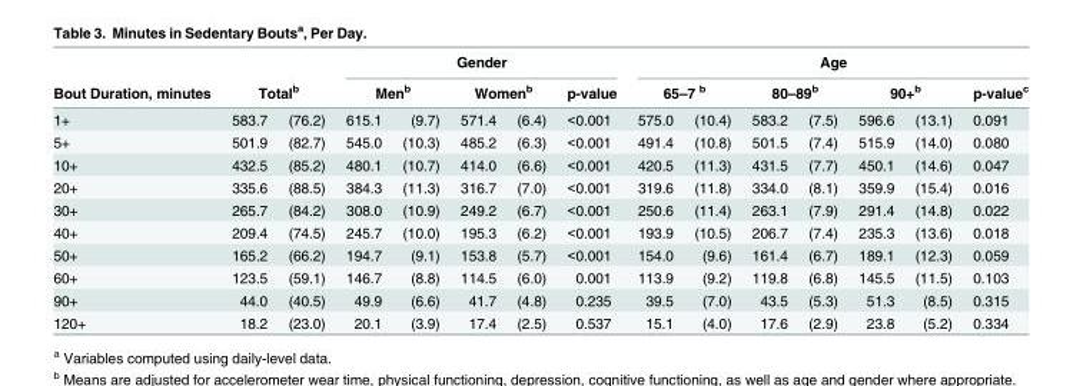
<table><thead><tr><td rowspan="3">Bout Duration, minutes 1+</td><td></td><td></td><td colspan="5">Gender</td><td colspan="7">Age</td></tr><tr><td colspan="2">Total<sup>b</sup></td><td colspan="2">Men<sup>b</sup></td><td colspan="2">Women<sup>b</sup></td><td rowspan="2">p-value &lt;0.001</td><td colspan="2">65–7 <sup>b</sup></td><td colspan="2">80–89<sup>b</sup></td><td colspan="2">90+<sup>b</sup></td><td rowspan="2">p-value<sup>c</sup> 0.091</td></tr><tr><td>583.7</td><td>(76.2)</td><td>615.1</td><td>(9.7)</td><td>571.4</td><td>(6.4)</td><td>575.0</td><td>(10.4)</td><td>583.2</td><td>(7.5)</td><td>596.6</td><td>(13.1)</td></tr></thead><tbody><tr><td>5+</td><td>501.9</td><td>(82.7)</td><td>545.0</td><td>(10.3)</td><td>485.2</td><td>(6.3)</td><td>&lt;0.001</td><td>491.4</td><td>(10.8)</td><td>501.5</td><td>(7.4)</td><td>515.9</td><td>(14.0)</td><td>0.080</td></tr><tr><td>10+</td><td>432.5</td><td>(85.2)</td><td>480.1</td><td>(10.7)</td><td>414.0</td><td>(6.6)</td><td>&lt;0.001</td><td>420.5</td><td>(11.3)</td><td>431.5</td><td>(7.7)</td><td>450.1</td><td>(14.6)</td><td>0.047</td></tr><tr><td>20+</td><td>335.6</td><td>(88.5)</td><td>384.3</td><td>(11.3)</td><td>316.7</td><td>(7.0)</td><td>&lt;0.001</td><td>319.6</td><td>(11.8)</td><td>334.0</td><td>(8.1)</td><td>359.9</td><td>(15.4)</td><td>0.016</td></tr><tr><td>30+</td><td>265.7</td><td>(84.2)</td><td>308.0</td><td>(10.9)</td><td>249.2</td><td>(6.7)</td><td>&lt;0.001</td><td>250.6</td><td>(11.4)</td><td>263.1</td><td>(7.9)</td><td>291.4</td><td>(14.8)</td><td>0.022</td></tr><tr><td>40+</td><td>209.4</td><td>(74.5)</td><td>245.7</td><td>(10.0)</td><td>195.3</td><td>(6.2)</td><td>&lt;0.001</td><td>193.9</td><td>(10.5)</td><td>206.7</td><td>(7.4)</td><td>235.3</td><td>(13.6)</td><td>0.018</td></tr><tr><td>50+</td><td>165.2</td><td>(66.2)</td><td>194.7</td><td>(9.1)</td><td>153.8</td><td>(5.7)</td><td>&lt;0.001</td><td>154.0</td><td>(9.6)</td><td>161.4</td><td>(6.7)</td><td>189.1</td><td>(12.3)</td><td>0.059</td></tr><tr><td>60+</td><td>123.5</td><td>(59.1)</td><td>146.7</td><td>(8.8)</td><td>114.5</td><td>(6.0)</td><td>0.001</td><td>113.9</td><td>(9.2)</td><td>119.8</td><td>(6.8)</td><td>145.5</td><td>(11.5)</td><td>0.103</td></tr><tr><td>90+</td><td>44.0</td><td>(40.5)</td><td>49.9</td><td>(6.6)</td><td>41.7</td><td>(4.8)</td><td>0.235</td><td>39.5</td><td>(7.0)</td><td>43.5</td><td>(5.3)</td><td>51.3</td><td>(8.5)</td><td>0.315</td></tr><tr><td>120+</td><td>18.2</td><td>(23.0)</td><td>20.1</td><td>(3.9)</td><td>17.4</td><td>(2.5)</td><td>0.537</td><td>15.1</td><td>(4.0)</td><td>17.6</td><td>(2.9)</td><td>23.8</td><td>(5.2)</td><td>0.334</td></tr></tbody></table>